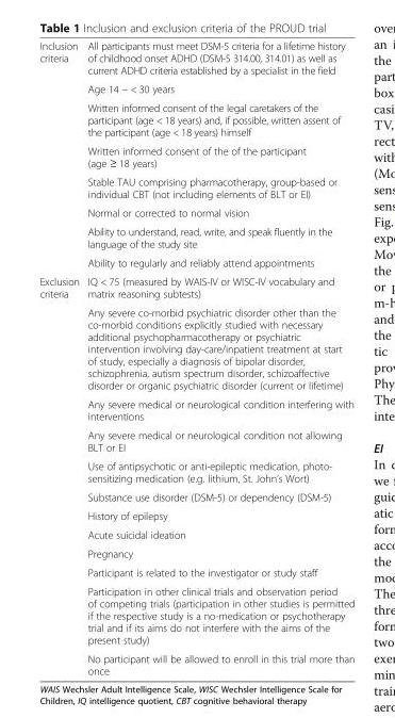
<table><tbody><tr><td rowspan="8">Inclusion criteria</td><td>All participants must meet DSM-5 criteria for a lifetime history of childhood onset ADHD (DSM-5 314.00, 314.01) as well as current ADHD criteria established by a specialist in the field</td></tr><tr><td>Age 14 – &lt; 30 years</td></tr><tr><td>Written informed consent of the legal caretakers of the participant (age &lt; 18 years) and, if possible, written assent of the participant (age &lt; 18 years) himself</td></tr><tr><td>Written informed consent of the of the participant (age ≥ 18 years)</td></tr><tr><td>Stable TAU comprising pharmacotherapy, group-based or individual CBT (not including elements of BLT or EI)</td></tr><tr><td>Normal or corrected to normal vision</td></tr><tr><td>Ability to understand, read, write, and speak fluently in the language of the study site</td></tr><tr><td>Ability to regularly and reliably attend appointments</td></tr><tr><td rowspan="12">Exclusion criteria</td><td>IQ &lt; 75 (measured by WAIS-IV or WISC-IV vocabulary and matrix reasoning subtests)</td></tr><tr><td>Any severe co-morbid psychiatric disorder other than the co-morbid conditions explicitly studied with necessary additional psychopharmacotherapy or psychiatric intervention involving day-care/inpatient treatment at start of study, especially a diagnosis of bipolar disorder, schizophrenia, autism spectrum disorder, schizoaffective disorder or organic psychiatric disorder (current or lifetime)</td></tr><tr><td>Any severe medical or neurological condition interfering with interventions</td></tr><tr><td>Any severe medical or neurological condition not allowing BLT or EI</td></tr><tr><td>Use of antipsychotic or anti-epileptic medication, photo- sensitizing medication (e.g. lithium, St. John’s Wort)</td></tr><tr><td>Substance use disorder (DSM-5) or dependency (DSM-5)</td></tr><tr><td>History of epilepsy</td></tr><tr><td>Acute suicidal ideation</td></tr><tr><td>Pregnancy</td></tr><tr><td>Participant is related to the investigator or study staff</td></tr><tr><td>Participation in other clinical trials and observation period of competing trials (participation in other studies is permitted if the respective study is a no-medication or psychotherapy trial and if its aims do not interfere with the aims of the present study)</td></tr><tr><td>No participant will be allowed to enroll in this trial more than once</td></tr></tbody></table>